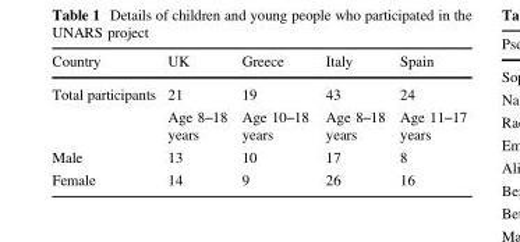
<table><thead><tr><td>Country</td><td>UK</td><td>Greece</td><td>Italy</td><td>Spain</td></tr></thead><tbody><tr><td rowspan="2">Total participants</td><td>21</td><td>19</td><td>43</td><td>24</td></tr><tr><td>Age 8–18 years</td><td>Age 10–18 years</td><td>Age 8–18 years</td><td>Age 11–17 years</td></tr><tr><td>Male</td><td>13</td><td>10</td><td>17</td><td>8</td></tr><tr><td>Female</td><td>14</td><td>9</td><td>26</td><td>16</td></tr></tbody></table>